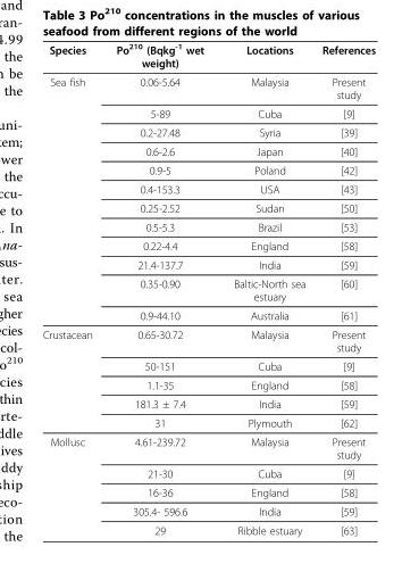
<table><thead><tr><td>Species</td><td>Po<sup>210</sup> (Bqkg<sup>-1</sup> wet weight)</td><td>Locations</td><td>References</td></tr></thead><tbody><tr><td rowspan="12">Sea fish</td><td>0.06-5.64</td><td>Malaysia</td><td>Present study</td></tr><tr><td>5-89</td><td>Cuba</td><td>[9]</td></tr><tr><td>0.2-27.48</td><td>Syria</td><td>[39]</td></tr><tr><td>0.6-2.6</td><td>Japan</td><td>[40]</td></tr><tr><td>0.9-5</td><td>Poland</td><td>[42]</td></tr><tr><td>0.4-153.3</td><td>USA</td><td>[43]</td></tr><tr><td>0.25-2.52</td><td>Sudan</td><td>[50]</td></tr><tr><td>0.5-5.3</td><td>Brazil</td><td>[53]</td></tr><tr><td>0.22-4.4</td><td>England</td><td>[58]</td></tr><tr><td>21.4-137.7</td><td>India</td><td>[59]</td></tr><tr><td>0.35-0.90</td><td>Baltic-North sea estuary</td><td>[60]</td></tr><tr><td>0.9-44.10</td><td>Australia</td><td>[61]</td></tr><tr><td rowspan="5">Crustacean</td><td>0.65-30.72</td><td>Malaysia</td><td>Present study</td></tr><tr><td>50-151</td><td>Cuba</td><td>[9]</td></tr><tr><td>1.1-35</td><td>England</td><td>[58]</td></tr><tr><td>181.3 ± 7.4</td><td>India</td><td>[59]</td></tr><tr><td>31</td><td>Plymouth</td><td>[62]</td></tr><tr><td rowspan="5">Mollusc</td><td>4.61-239.72</td><td>Malaysia</td><td>Present study</td></tr><tr><td>21-30</td><td>Cuba</td><td>[9]</td></tr><tr><td>16-36</td><td>England</td><td>[58]</td></tr><tr><td>305.4- 596.6</td><td>India</td><td>[59]</td></tr><tr><td>29</td><td>Ribble estuary</td><td>[63]</td></tr></tbody></table>